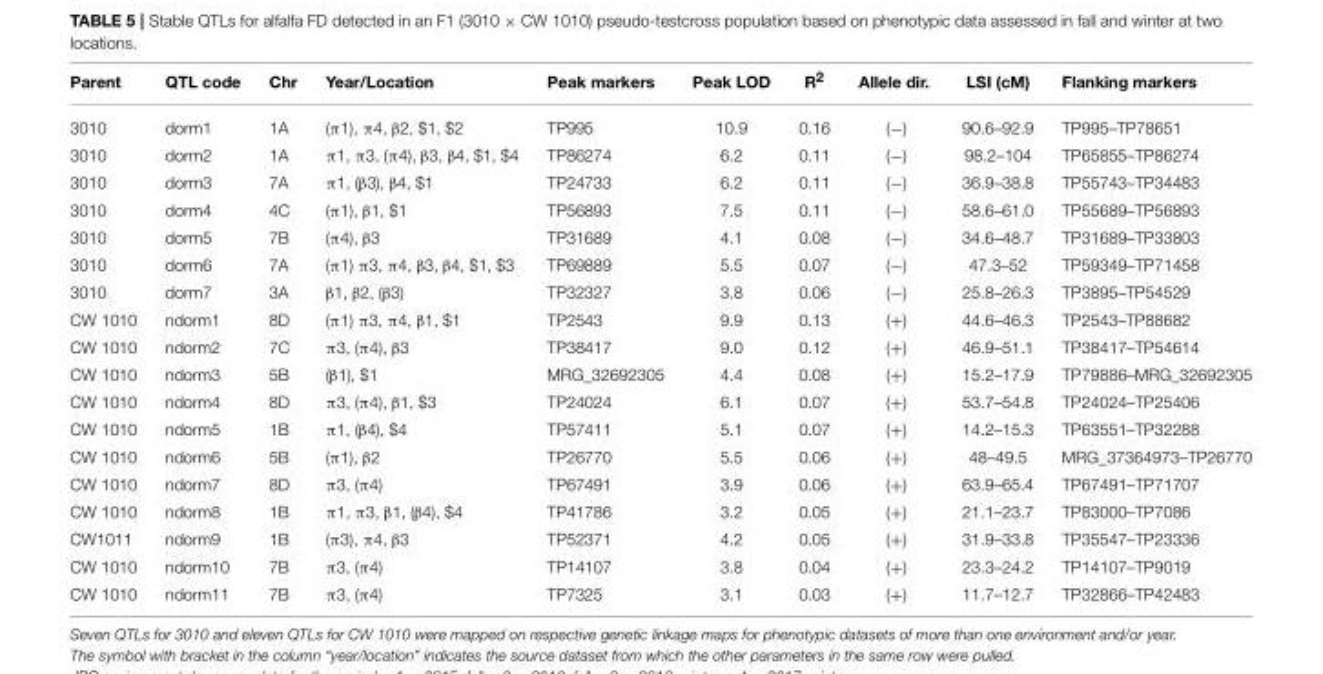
<table><thead><tr><td>Parent</td><td>QTL code</td><td>Chr</td><td>Year/Location</td><td>Peak markers</td><td>Peak LOD</td><td>R<sup>2</sup></td><td>Allele dir.</td><td>LSI (cM)</td><td>Flanking markers</td></tr></thead><tbody><tr><td>3010</td><td>dorm1</td><td>1A</td><td>(π1), π4, β2, $1, $2</td><td>TP995</td><td>10.9</td><td>0.16</td><td>(−)</td><td>90.6–92.9</td><td>TP995–TP78651</td></tr><tr><td>3010</td><td>dorm2</td><td>1A</td><td>π1, π3, (π4), β3, β4, $1, $4</td><td>TP86274</td><td>6.2</td><td>0.11</td><td>(−)</td><td>98.2–104</td><td>TP65855–TP86274</td></tr><tr><td>3010</td><td>dorm3</td><td>7A</td><td>π1, (β3), β4, $1</td><td>TP24733</td><td>6.2</td><td>0.11</td><td>(−)</td><td>36.9–38.8</td><td>TP55743–TP34483</td></tr><tr><td>3010</td><td>dorm4</td><td>4C</td><td>(π1), β1, $1</td><td>TP56893</td><td>7.5</td><td>0.11</td><td>(−)</td><td>58.6–61.0</td><td>TP55689–TP56893</td></tr><tr><td>3010</td><td>dorm5</td><td>7B</td><td>(π4), β3</td><td>TP31689</td><td>4.1</td><td>0.08</td><td>(−)</td><td>34.6–48.7</td><td>TP31689–TP33803</td></tr><tr><td>3010</td><td>dorm6</td><td>7A</td><td>(π1) π3, π4, β3, β4, $1, $3</td><td>TP69889</td><td>5.5</td><td>0.07</td><td>(−)</td><td>47.3–52</td><td>TP59349–TP71458</td></tr><tr><td>3010</td><td>dorm7</td><td>3A</td><td>β1, β2, (β3)</td><td>TP32327</td><td>3.8</td><td>0.06</td><td>(−)</td><td>25.8–26.3</td><td>TP3895–TP54529</td></tr><tr><td>CW 1010</td><td>ndorm1</td><td>8D</td><td>(π1) π3, π4, β1, $1</td><td>TP2543</td><td>9.9</td><td>0.13</td><td>(+)</td><td>44.6–46.3</td><td>TP2543–TP88682</td></tr><tr><td>CW 1010</td><td>ndorm2</td><td>7C</td><td>π3, (π4), β3</td><td>TP38417</td><td>9.0</td><td>0.12</td><td>(+)</td><td>46.9–51.1</td><td>TP38417–TP54614</td></tr><tr><td>CW 1010</td><td>ndorm3</td><td>5B</td><td>(β1), $1</td><td>MRG_32692305</td><td>4.4</td><td>0.08</td><td>(+)</td><td>15.2–17.9</td><td>TP79886–MRG_32692305</td></tr><tr><td>CW 1010</td><td>ndorm4</td><td>8D</td><td>π3, (π4), β1, $3</td><td>TP24024</td><td>6.1</td><td>0.07</td><td>(+)</td><td>53.7–54.8</td><td>TP24024–TP25406</td></tr><tr><td>CW 1010</td><td>ndorm5</td><td>1B</td><td>π1, (β4), $4</td><td>TP57411</td><td>5.1</td><td>0.07</td><td>(+)</td><td>14.2–15.3</td><td>TP63551–TP32288</td></tr><tr><td>CW 1010</td><td>ndorm6</td><td>5B</td><td>(π1), β2</td><td>TP26770</td><td>5.5</td><td>0.06</td><td>(+)</td><td>48–49.5</td><td>MRG_37364973–TP26770</td></tr><tr><td>CW 1010</td><td>ndorm7</td><td>8D</td><td>π3, (π4)</td><td>TP67491</td><td>3.9</td><td>0.06</td><td>(+)</td><td>63.9–65.4</td><td>TP67491–TP71707</td></tr><tr><td>CW 1010</td><td>ndorm8</td><td>1B</td><td>π1, π3, β1, (β4), $4</td><td>TP41786</td><td>3.2</td><td>0.05</td><td>(+)</td><td>21.1–23.7</td><td>TP83000–TP7086</td></tr><tr><td>CW1011</td><td>ndorm9</td><td>1B</td><td>(π3), π4, β3</td><td>TP52371</td><td>4.2</td><td>0.05</td><td>(+)</td><td>31.9–33.8</td><td>TP35547–TP23336</td></tr><tr><td>CW 1010</td><td>ndorm10</td><td>7B</td><td>π3, (π4)</td><td>TP14107</td><td>3.8</td><td>0.04</td><td>(+)</td><td>23.3–24.2</td><td>TP14107–TP9019</td></tr><tr><td>CW 1010</td><td>ndorm11</td><td>7B</td><td>π3, (π4)</td><td>TP7325</td><td>3.1</td><td>0.03</td><td>(+)</td><td>11.7–12.7</td><td>TP32866–TP42483</td></tr></tbody></table>